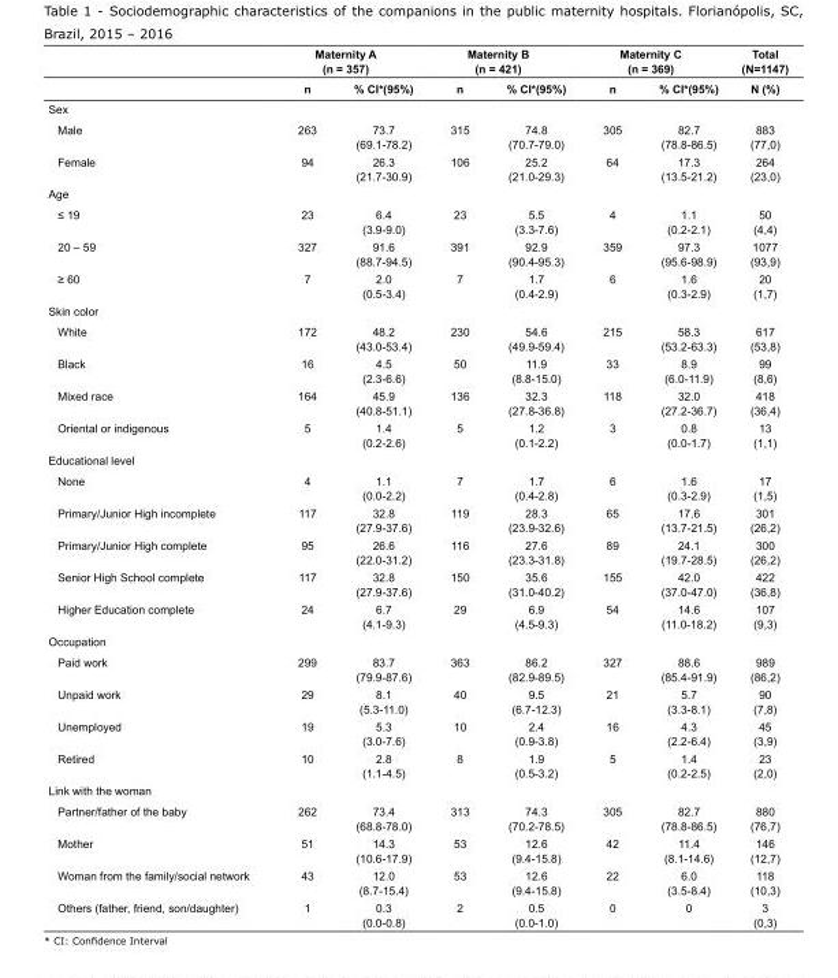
<table><thead><tr><td rowspan="2"></td><td colspan="2">Maternity A (n = 357)</td><td colspan="2">Maternity B (n = 421)</td><td colspan="2">Maternity C (n = 369)</td><td rowspan="2">Total (N=1147) N (%)</td></tr><tr><td>n</td><td>% CI*(95%)</td><td>n</td><td>% CI*(95%)</td><td>n</td><td>% CI*(95%)</td></tr></thead><tbody><tr><td colspan="8">Sex</td></tr><tr><td>Male</td><td>263</td><td>73.7 (69.1-78.2)</td><td>315</td><td>74.8 (70.7-79.0)</td><td>305</td><td>82.7 (78.8-86.5)</td><td>883 (77,0)</td></tr><tr><td>Female</td><td>94</td><td>26.3 (21.7-30.9)</td><td>106</td><td>25.2 (21.0-29.3)</td><td>64</td><td>17.3 (13.5-21.2)</td><td>264 (23,0)</td></tr><tr><td colspan="8">Age</td></tr><tr><td>≤ 19</td><td>23</td><td>6.4 (3.9-9.0)</td><td>23</td><td>5.5 (3.3-7.6)</td><td>4</td><td>1.1 (0.2-2.1)</td><td>50 (4,4)</td></tr><tr><td>20 – 59</td><td>327</td><td>91.6 (88.7-94.5)</td><td>391</td><td>92.9 (90.4-95.3)</td><td>359</td><td>97.3 (95.6-98.9)</td><td>1077 (93,9)</td></tr><tr><td>≥ 60</td><td>7</td><td>2.0 (0.5-3.4)</td><td>7</td><td>1.7 (0.4-2.9)</td><td>6</td><td>1.6 (0.3-2.9)</td><td>20 (1,7)</td></tr><tr><td colspan="8">Skin color</td></tr><tr><td>White</td><td>172</td><td>48.2 (43.0-53.4)</td><td>230</td><td>54.6 (49.9-59.4)</td><td>215</td><td>58.3 (53.2-63.3)</td><td>617 (53,8)</td></tr><tr><td>Black</td><td>16</td><td>4.5 (2.3-6.6)</td><td>50</td><td>11.9 (8.8-15.0)</td><td>33</td><td>8.9 (6.0-11.9)</td><td>99 (8,6)</td></tr><tr><td>Mixed race</td><td>164</td><td>45.9 (40.8-51.1)</td><td>136</td><td>32.3 (27.8-36.8)</td><td>118</td><td>32.0 (27.2-36.7)</td><td>418 (36,4)</td></tr><tr><td>Oriental or indigenous</td><td>5</td><td>1.4 (0.2-2.6)</td><td>5</td><td>1.2 (0.1-2.2)</td><td>3</td><td>0.8 (0.0-1.7)</td><td>13 (1,1)</td></tr><tr><td colspan="8">Educational level</td></tr><tr><td>None</td><td>4</td><td>1.1 (0.0-2.2)</td><td>7</td><td>1.7 (0.4-2.8)</td><td>6</td><td>1.6 (0.3-2.9)</td><td>17 (1,5)</td></tr><tr><td>Primary/Junior High incomplete</td><td>117</td><td>32.8 (27.9-37.6)</td><td>119</td><td>28.3 (23.9-32.6)</td><td>65</td><td>17.6 (13.7-21.5)</td><td>301 (26,2)</td></tr><tr><td>Primary/Junior High complete</td><td>95</td><td>26.6 (22.0-31.2)</td><td>116</td><td>27.6 (23.3-31.8)</td><td>89</td><td>24.1 (19.7-28.5)</td><td>300 (26,2)</td></tr><tr><td>Senior High School complete</td><td>117</td><td>32.8 (27.9-37.6)</td><td>150</td><td>35.6 (31.0-40.2)</td><td>155</td><td>42.0 (37.0-47.0)</td><td>422 (36,8)</td></tr><tr><td>Higher Education complete</td><td>24</td><td>6.7 (4.1-9.3)</td><td>29</td><td>6.9 (4.5-9.3)</td><td>54</td><td>14.6 (11.0-18.2)</td><td>107 (9,3)</td></tr><tr><td colspan="8">Occupation</td></tr><tr><td>Paid work</td><td>299</td><td>83.7 (79.9-87.6)</td><td>363</td><td>86.2 (82.9-89.5)</td><td>327</td><td>88.6 (85.4-91.9)</td><td>989 (86,2)</td></tr><tr><td>Unpaid work</td><td>29</td><td>8.1 (5.3-11.0)</td><td>40</td><td>9.5 (6.7-12.3)</td><td>21</td><td>5.7 (3.3-8.1)</td><td>90 (7,8)</td></tr><tr><td>Unemployed</td><td>19</td><td>5.3 (3.0-7.6)</td><td>10</td><td>2.4 (0.9-3.8)</td><td>16</td><td>4.3 (2.2-6.4)</td><td>45 (3,9)</td></tr><tr><td>Retired</td><td>10</td><td>2.8 (1.1-4.5)</td><td>8</td><td>1.9 (0.5-3.2)</td><td>5</td><td>1.4 (0.2-2.5)</td><td>23 (2,0)</td></tr><tr><td colspan="8">Link with the woman</td></tr><tr><td>Partner/father of the baby</td><td>262</td><td>73.4 (68.8-78.0)</td><td>313</td><td>74.3 (70.2-78.5)</td><td>305</td><td>82.7 (78.8-86.5)</td><td>880 (76,7)</td></tr><tr><td>Mother</td><td>51</td><td>14.3 (10.6-17.9)</td><td>53</td><td>12.6 (9.4-15.8)</td><td>42</td><td>11.4 (8.1-14.6)</td><td>146 (12,7)</td></tr><tr><td>Woman from the family/social network</td><td>43</td><td>12.0 (8.7-15.4)</td><td>53</td><td>12.6 (9.4-15.8)</td><td>22</td><td>6.0 (3.5-8.4)</td><td>118 (10,3)</td></tr><tr><td>Others (father, friend, son/daughter)</td><td>1</td><td>0.3 (0.0-0.8)</td><td>2</td><td>0.5 (0.0-1.0)</td><td>0</td><td>0</td><td>3 (0,3)</td></tr></tbody></table>